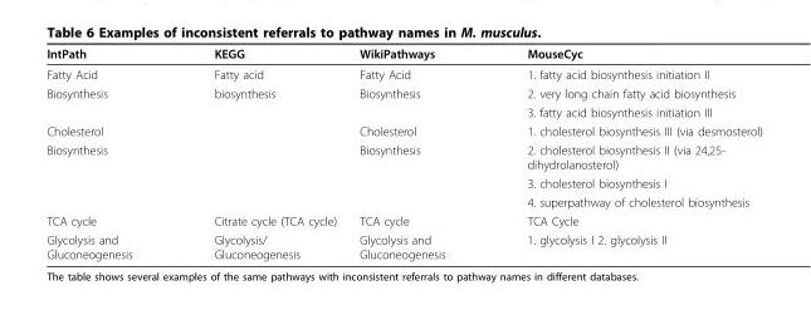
<table><thead><tr><td>IntPath</td><td>KEGG</td><td>WikiPathways</td><td>MouseCyc</td></tr></thead><tbody><tr><td>Fatty Acid</td><td>Fatty acid</td><td>Fatty Acid</td><td>1. fatty acid biosynthesis initiation II</td></tr><tr><td rowspan="2">Biosynthesis</td><td>biosynthesis</td><td>Biosynthesis</td><td>2. very long chain fatty acid biosynthesis</td></tr><tr><td></td><td></td><td>3. fatty acid biosynthesis initiation III</td></tr><tr><td>Cholesterol</td><td></td><td>Cholesterol</td><td>1. cholesterol biosynthesis III (via desmosterol)</td></tr><tr><td rowspan="3">Biosynthesis</td><td></td><td>Biosynthesis</td><td>2. cholesterol biosynthesis II (via 24,25- dihydrolanosterol)</td></tr><tr><td></td><td></td><td>3. cholesterol biosynthesis I</td></tr><tr><td></td><td></td><td>4. superpathway of cholesterol biosynthesis</td></tr><tr><td>TCA cycle</td><td>Citrate cycle (TCA cycle)</td><td>TCA cycle</td><td>TCA Cycle</td></tr><tr><td>Glycolysis and Gluconeogenesis</td><td>Glycolysis/ Gluconeogenesis</td><td>Glycolysis and Gluconeogenesis</td><td>1. glycolysis I 2. glycolysis II</td></tr></tbody></table>